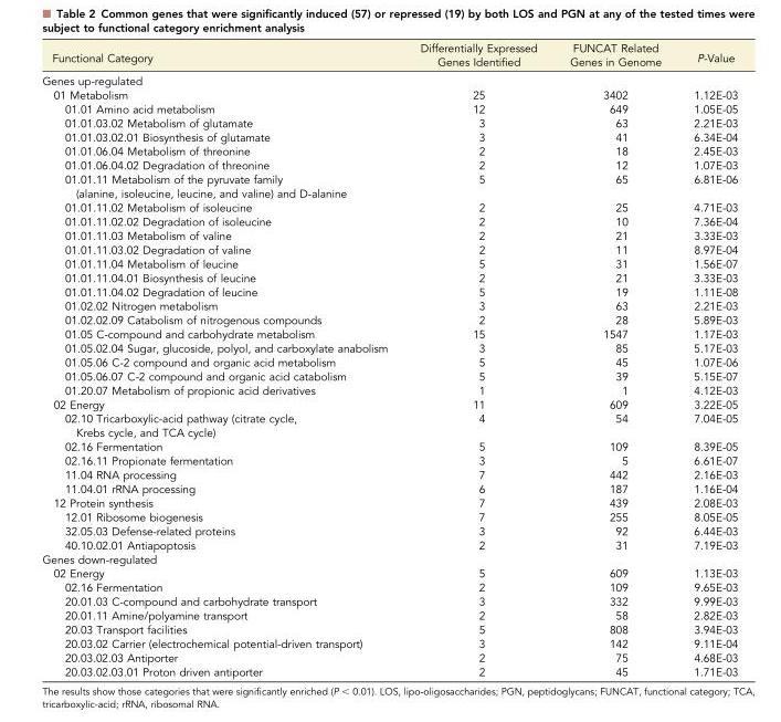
<table><thead><tr><td>Functional Category</td><td>Differentially Expressed Genes Identified</td><td>FUNCAT Related Genes in Genome</td><td>P-Value</td></tr></thead><tbody><tr><td colspan="4">Genes up-regulated</td></tr><tr><td>01 Metabolism</td><td>25</td><td>3402</td><td>1.12E-03</td></tr><tr><td>01.01 Amino acid metabolism</td><td>12</td><td>649</td><td>1.05E-05</td></tr><tr><td>01.01.03.02 Metabolism of glutamate</td><td>3</td><td>63</td><td>2.21E-03</td></tr><tr><td>01.01.03.02.01 Biosynthesis of glutamate</td><td>3</td><td>41</td><td>6.34E-04</td></tr><tr><td>01.01.06.04 Metabolism of threonine</td><td>2</td><td>18</td><td>2.45E-03</td></tr><tr><td>01.01.06.04.02 Degradation of threonine</td><td>2</td><td>12</td><td>1.07E-03</td></tr><tr><td>01.01.11 Metabolism of the pyruvate family (alanine, isoleucine, leucine, and valine) and D-alanine</td><td>5</td><td>65</td><td>6.81E-06</td></tr><tr><td>01.01.11.02 Metabolism of isoleucine</td><td>2</td><td>25</td><td>4.71E-03</td></tr><tr><td>01.01.11.02.02 Degradation of isoleucine</td><td>2</td><td>10</td><td>7.36E-04</td></tr><tr><td>01.01.11.03 Metabolism of valine</td><td>2</td><td>21</td><td>3.33E-03</td></tr><tr><td>01.01.11.03.02 Degradation of valine</td><td>2</td><td>11</td><td>8.97E-04</td></tr><tr><td>01.01.11.04 Metabolism of leucine</td><td>5</td><td>31</td><td>1.56E-07</td></tr><tr><td>01.01.11.04.01 Biosynthesis of leucine</td><td>2</td><td>21</td><td>3.33E-03</td></tr><tr><td>01.01.11.04.02 Degradation of leucine</td><td>5</td><td>19</td><td>1.11E-08</td></tr><tr><td>01.02.02 Nitrogen metabolism</td><td>3</td><td>63</td><td>2.21E-03</td></tr><tr><td>01.02.02.09 Catabolism of nitrogenous compounds</td><td>2</td><td>28</td><td>5.89E-03</td></tr><tr><td>01.05 C-compound and carbohydrate metabolism</td><td>15</td><td>1547</td><td>1.17E-03</td></tr><tr><td>01.05.02.04 Sugar, glucoside, polyol, and carboxylate anabolism</td><td>3</td><td>85</td><td>5.17E-03</td></tr><tr><td>01.05.06 C-2 compound and organic acid metabolism</td><td>5</td><td>45</td><td>1.07E-06</td></tr><tr><td>01.05.06.07 C-2 compound and organic acid catabolism</td><td>5</td><td>39</td><td>5.15E-07</td></tr><tr><td>01.20.07 Metabolism of propionic acid derivatives</td><td>1</td><td>1</td><td>4.12E-03</td></tr><tr><td>02 Energy</td><td>11</td><td>609</td><td>3.22E-05</td></tr><tr><td>02.10 Tricarboxylic-acid pathway (citrate cycle, Krebs cycle, and TCA cycle)</td><td>4</td><td>54</td><td>7.04E-05</td></tr><tr><td>02.16 Fermentation</td><td>5</td><td>109</td><td>8.39E-05</td></tr><tr><td>02.16.11 Propionate fermentation</td><td>3</td><td>5</td><td>6.61E-07</td></tr><tr><td>11.04 RNA processing</td><td>7</td><td>442</td><td>2.16E-03</td></tr><tr><td>11.04.01 rRNA processing</td><td>6</td><td>187</td><td>1.16E-04</td></tr><tr><td>12 Protein synthesis</td><td>7</td><td>439</td><td>2.08E-03</td></tr><tr><td>12.01 Ribosome biogenesis</td><td>7</td><td>255</td><td>8.05E-05</td></tr><tr><td>32.05.03 Defense-related proteins</td><td>3</td><td>92</td><td>6.44E-03</td></tr><tr><td>40.10.02.01 Antiapoptosis</td><td>2</td><td>31</td><td>7.19E-03</td></tr><tr><td colspan="4">Genes down-regulated</td></tr><tr><td>02 Energy</td><td>5</td><td>609</td><td>1.13E-03</td></tr><tr><td>02.16 Fermentation</td><td>2</td><td>109</td><td>9.65E-03</td></tr><tr><td>20.01.03 C-compound and carbohydrate transport</td><td>3</td><td>332</td><td>9.99E-03</td></tr><tr><td>20.01.11 Amine/polyamine transport</td><td>2</td><td>58</td><td>2.82E-03</td></tr><tr><td>20.03 Transport facilities</td><td>5</td><td>808</td><td>3.94E-03</td></tr><tr><td>20.03.02 Carrier (electrochemical potential-driven transport)</td><td>3</td><td>142</td><td>9.11E-04</td></tr><tr><td>20.03.02.03 Antiporter</td><td>2</td><td>75</td><td>4.68E-03</td></tr><tr><td>20.03.02.03.01 Proton driven antiporter</td><td>2</td><td>45</td><td>1.71E-03</td></tr></tbody></table>